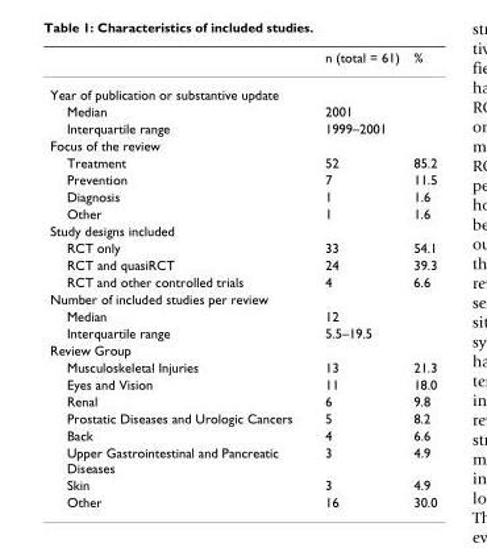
<table><thead><tr><td></td><td>n (total = 61)</td><td>%</td></tr></thead><tbody><tr><td colspan="3">Year of publication or substantive update</td></tr><tr><td>Median</td><td>2001</td><td></td></tr><tr><td>Interquartile range</td><td>1999–2001</td><td></td></tr><tr><td colspan="3">Focus of the review</td></tr><tr><td>Treatment</td><td>52</td><td>85.2</td></tr><tr><td>Prevention</td><td>7</td><td>11.5</td></tr><tr><td>Diagnosis</td><td>1</td><td>1.6</td></tr><tr><td>Other</td><td>1</td><td>1.6</td></tr><tr><td colspan="3">Study designs included</td></tr><tr><td>RCT only</td><td>33</td><td>54.1</td></tr><tr><td>RCT and quasiRCT</td><td>24</td><td>39.3</td></tr><tr><td>RCT and other controlled trials</td><td>4</td><td>6.6</td></tr><tr><td colspan="3">Number of included studies per review</td></tr><tr><td>Median</td><td>12</td><td></td></tr><tr><td>Interquartile range</td><td>5.5–19.5</td><td></td></tr><tr><td colspan="3">Review Group</td></tr><tr><td>Musculoskeletal Injuries</td><td>13</td><td>21.3</td></tr><tr><td>Eyes and Vision</td><td>11</td><td>18.0</td></tr><tr><td>Renal</td><td>6</td><td>9.8</td></tr><tr><td>Prostatic Diseases and Urologic Cancers</td><td>5</td><td>8.2</td></tr><tr><td>Back</td><td>4</td><td>6.6</td></tr><tr><td>Upper Gastrointestinal and Pancreatic Diseases</td><td>3</td><td>4.9</td></tr><tr><td>Skin</td><td>3</td><td>4.9</td></tr><tr><td>Other</td><td>16</td><td>30.0</td></tr></tbody></table>